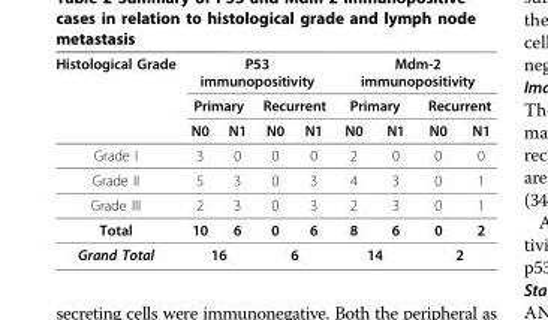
<table><thead><tr><td rowspan="3">Histological Grade</td><td colspan="4">P53 immunopositivity</td><td colspan="4">Mdm-2 immunopositivity</td></tr><tr><td colspan="2">Primary</td><td colspan="2">Recurrent</td><td colspan="2">Primary</td><td colspan="2">Recurrent</td></tr><tr><td>N0</td><td>N1</td><td>N0</td><td>N1</td><td>N0</td><td>N1</td><td>N0</td><td>N1</td></tr></thead><tbody><tr><td>Grade I</td><td>3</td><td>0</td><td>0</td><td>0</td><td>2</td><td>0</td><td>0</td><td>0</td></tr><tr><td>Grade II</td><td>5</td><td>3</td><td>0</td><td>3</td><td>4</td><td>3</td><td>0</td><td>1</td></tr><tr><td>Grade III</td><td>2</td><td>3</td><td>0</td><td>3</td><td>2</td><td>3</td><td>0</td><td>1</td></tr><tr><td>Total</td><td>10</td><td>6</td><td>0</td><td>6</td><td>8</td><td>6</td><td>0</td><td>2</td></tr><tr><td>Grand Total</td><td colspan="2">16</td><td colspan="2">6</td><td colspan="2">14</td><td colspan="2">2</td></tr></tbody></table>